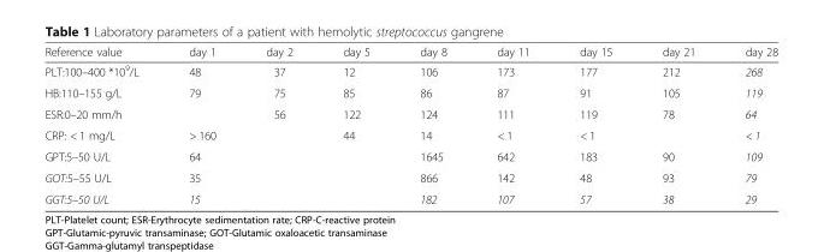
<table><thead><tr><td>Reference value</td><td>day 1</td><td>day 2</td><td>day 5</td><td>day 8</td><td>day 11</td><td>day 15</td><td>day 21</td><td>day 28</td></tr></thead><tbody><tr><td>PLT:100–400 *10<sup>9</sup>/L</td><td>48</td><td>37</td><td>12</td><td>106</td><td>173</td><td>177</td><td>212</td><td>268</td></tr><tr><td>HB:110–155 g/L</td><td>79</td><td>75</td><td>85</td><td>86</td><td>87</td><td>91</td><td>105</td><td>119</td></tr><tr><td>ESR:0–20 mm/h</td><td></td><td>56</td><td>122</td><td>124</td><td>111</td><td>119</td><td>78</td><td>64</td></tr><tr><td>CRP: &lt; 1 mg/L</td><td>&gt; 160</td><td></td><td>44</td><td>14</td><td>&lt; 1</td><td>&lt; 1</td><td></td><td>&lt; 1</td></tr><tr><td>GPT:5–50 U/L</td><td>64</td><td></td><td></td><td>1645</td><td>642</td><td>183</td><td>90</td><td>109</td></tr><tr><td>GOT:5–55 U/L</td><td>35</td><td></td><td></td><td>866</td><td>142</td><td>48</td><td>93</td><td>79</td></tr><tr><td>GGT:5–50 U/L</td><td>15</td><td></td><td></td><td>182</td><td>107</td><td>57</td><td>38</td><td>29</td></tr></tbody></table>